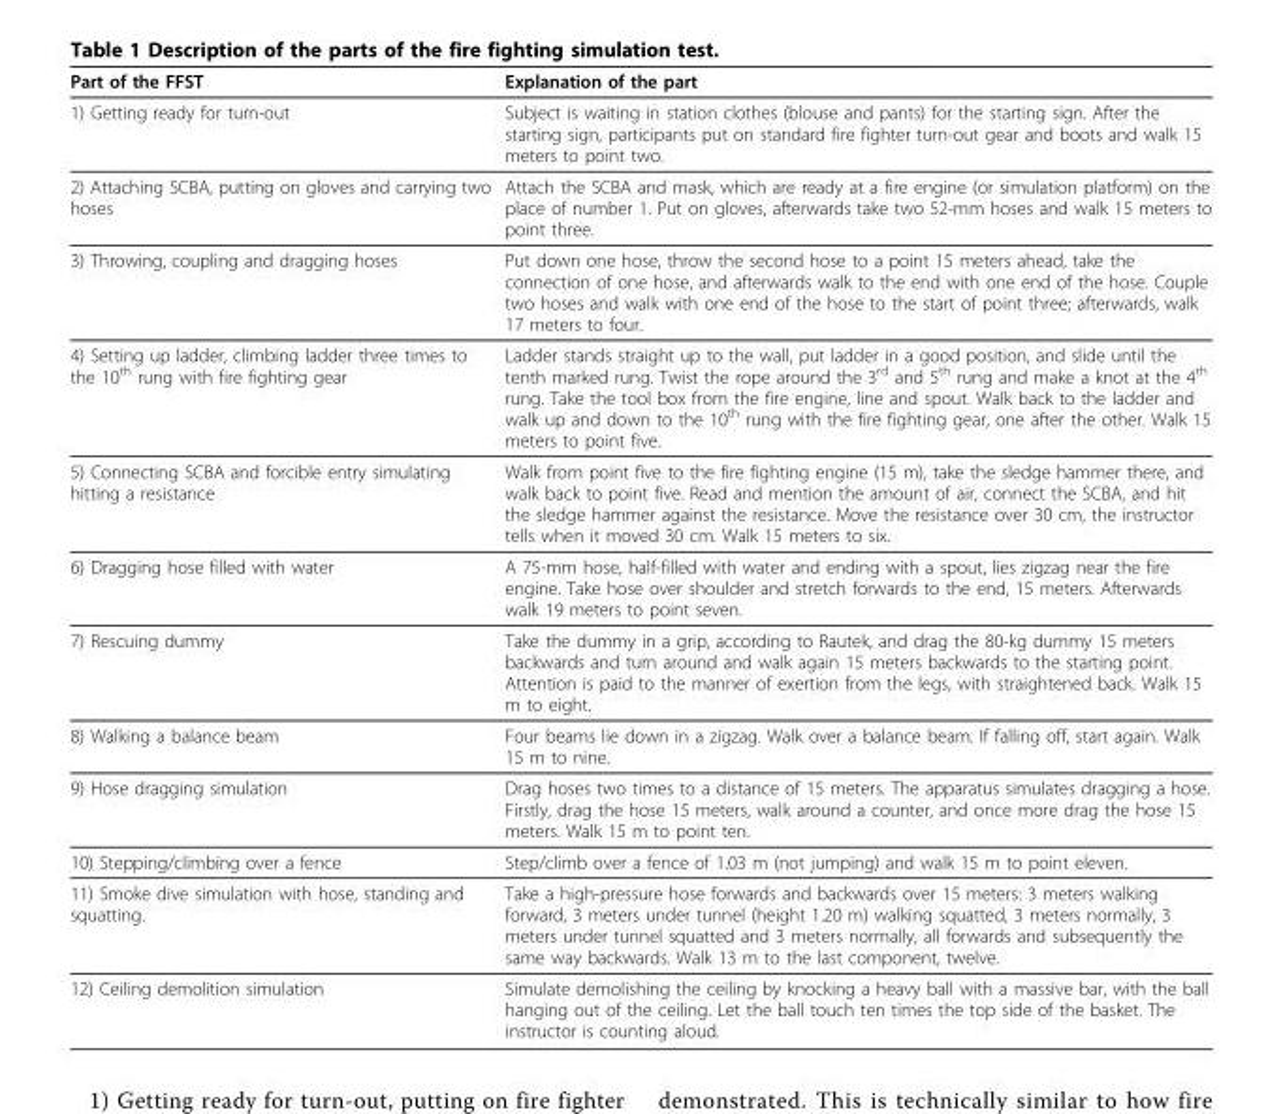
<table><thead><tr><td>Part of the FFST</td><td>Explanation of the part</td></tr></thead><tbody><tr><td>1) Getting ready for turn-out</td><td>Subject is waiting in station clothes (blouse and pants) for the starting sign. After the starting sign, participants put on standard fire fighter turn-out gear and boots and walk 15 meters to point two.</td></tr><tr><td>2) Attaching SCBA, putting on gloves and carrying two hoses</td><td>Attach the SCBA and mask, which are ready at a fire engine (or simulation platform) on the place of number 1. Put on gloves, afterwards take two 52-mm hoses and walk 15 meters to point three.</td></tr><tr><td>3) Throwing, coupling and dragging hoses</td><td>Put down one hose, throw the second hose to a point 15 meters ahead, take the connection of one hose, and afterwards walk to the end with one end of the hose. Couple two hoses and walk with one end of the hose to the start of point three; afterwards, walk 17 meters to four.</td></tr><tr><td>4) Setting up ladder, climbing ladder three times to the 10<sup>th</sup> rung with fire fighting gear</td><td>Ladder stands straight up to the wall, put ladder in a good position, and slide until the tenth marked rung. Twist the rope around the 3<sup>rd</sup> and 5<sup>th</sup> rung and make a knot at the 4<sup>th</sup> rung. Take the tool box from the fire engine, line and spout. Walk back to the ladder and walk up and down to the 10<sup>th</sup> rung with the fire fighting gear, one after the other. Walk 15 meters to point five.</td></tr><tr><td>5) Connecting SCBA and forcible entry simulating hitting a resistance</td><td>Walk from point five to the fire fighting engine (15 m), take the sledge hammer there, and walk back to point five. Read and mention the amount of air, connect the SCBA, and hit the sledge hammer against the resistance. Move the resistance over 30 cm, the instructor tells when it moved 30 cm. Walk 15 meters to six.</td></tr><tr><td>6) Dragging hose filled with water</td><td>A 75-mm hose, half-filled with water and ending with a spout, lies zigzag near the fire engine. Take hose over shoulder and stretch forwards to the end, 15 meters. Afterwards walk 19 meters to point seven.</td></tr><tr><td>7) Rescuing dummy</td><td>Take the dummy in a grip, according to Rautek, and drag the 80-kg dummy 15 meters backwards and turn around and walk again 15 meters backwards to the starting point. Attention is paid to the manner of exertion from the legs, with straightened back. Walk 15 m to eight.</td></tr><tr><td>8) Walking a balance beam</td><td>Four beams lie down in a zigzag. Walk over a balance beam. If falling off, start again. Walk 15 m to nine.</td></tr><tr><td>9) Hose dragging simulation</td><td>Drag hoses two times to a distance of 15 meters. The apparatus simulates dragging a hose. Firstly, drag the hose 15 meters, walk around a counter, and once more drag the hose 15 meters. Walk 15 m to point ten.</td></tr><tr><td>10) Stepping/climbing over a fence</td><td>Step/climb over a fence of 1.03 m (not jumping) and walk 15 m to point eleven.</td></tr><tr><td>11) Smoke dive simulation with hose, standing and squatting.</td><td>Take a high-pressure hose forwards and backwards over 15 meters: 3 meters walking forward, 3 meters under tunnel (height 1.20 m) walking squatted, 3 meters normally, 3 meters under tunnel squatted and 3 meters normally, all forwards and subsequently the same way backwards. Walk 13 m to the last component, twelve.</td></tr><tr><td>12) Ceiling demolition simulation</td><td>Simulate demolishing the ceiling by knocking a heavy ball with a massive bar, with the ball hanging out of the ceiling. Let the ball touch ten times the top side of the basket. The instructor is counting aloud.</td></tr></tbody></table>